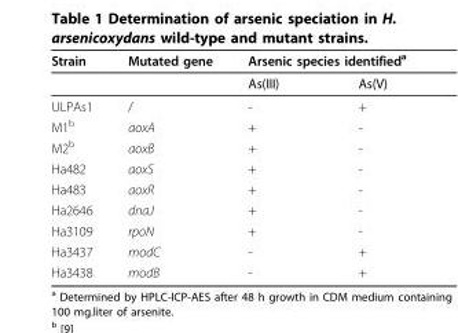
<table><thead><tr><td rowspan="2">Strain</td><td rowspan="2">Mutated gene</td><td colspan="2">Arsenic species identified<sup>a</sup></td></tr><tr><td>As(III)</td><td>As(V)</td></tr></thead><tbody><tr><td>ULPAs1</td><td>/</td><td>-</td><td>+</td></tr><tr><td>M1<sup>b</sup></td><td>aoxA</td><td>+</td><td>-</td></tr><tr><td>M2<sup>b</sup></td><td>aoxB</td><td>+</td><td>-</td></tr><tr><td>Ha482</td><td>aoxS</td><td>+</td><td>-</td></tr><tr><td>Ha483</td><td>aoxR</td><td>+</td><td>-</td></tr><tr><td>Ha2646</td><td>dnaJ</td><td>+</td><td>-</td></tr><tr><td>Ha3109</td><td>rpoN</td><td>+</td><td>-</td></tr><tr><td>Ha3437</td><td>modC</td><td>-</td><td>+</td></tr><tr><td>Ha3438</td><td>modB</td><td>-</td><td>+</td></tr></tbody></table>